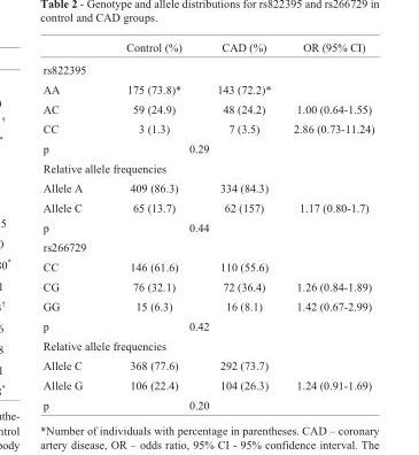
<table><thead><tr><td></td><td>Control (%)</td><td>CAD (%)</td><td>OR (95% CI)</td></tr></thead><tbody><tr><td colspan="4">rs822395</td></tr><tr><td>AA</td><td>175 (73.8)*</td><td>143 (72.2)*</td><td></td></tr><tr><td>AC</td><td>59 (24.9)</td><td>48 (24.2)</td><td>1.00 (0.64-1.55)</td></tr><tr><td>CC</td><td>3 (1.3)</td><td>7 (3.5)</td><td>2.86 (0.73-11.24)</td></tr><tr><td>p</td><td colspan="2">0.29</td><td></td></tr><tr><td colspan="4">Relative allele frequencies</td></tr><tr><td>Allele A</td><td>409 (86.3)</td><td>334 (84.3)</td><td></td></tr><tr><td>Allele C</td><td>65 (13.7)</td><td>62 (157)</td><td>1.17 (0.80-1.7)</td></tr><tr><td>p</td><td colspan="2">0.44</td><td></td></tr><tr><td colspan="4">rs266729</td></tr><tr><td>CC</td><td>146 (61.6)</td><td>110 (55.6)</td><td></td></tr><tr><td>CG</td><td>76 (32.1)</td><td>72 (36.4)</td><td>1.26 (0.84-1.89)</td></tr><tr><td>GG</td><td>15 (6.3)</td><td>16 (8.1)</td><td>1.42 (0.67-2.99)</td></tr><tr><td>p</td><td colspan="2">0.42</td><td></td></tr><tr><td colspan="4">Relative allele frequencies</td></tr><tr><td>Allele C</td><td>368 (77.6)</td><td>292 (73.7)</td><td></td></tr><tr><td>Allele G</td><td>106 (22.4)</td><td>104 (26.3)</td><td>1.24 (0.91-1.69)</td></tr><tr><td>p</td><td colspan="2">0.20</td><td></td></tr></tbody></table>